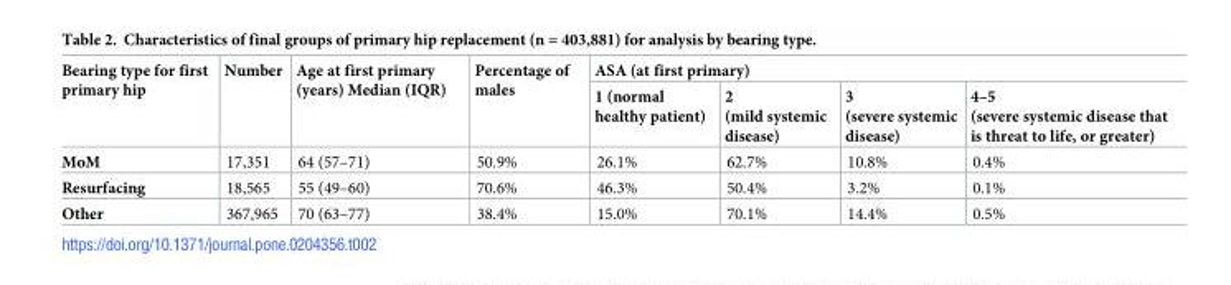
<table><thead><tr><td rowspan="2">Bearing type for first primary hip</td><td rowspan="2">Number</td><td rowspan="2">Age at first primary (years) Median (IQR)</td><td rowspan="2">Percentage of males</td><td colspan="4">ASA (at first primary)</td></tr><tr><td>1 (normal healthy patient)</td><td>2 (mild systemic disease)</td><td>3 (severe systemic disease)</td><td>4–5 (severe systemic disease that is threat to life, or greater)</td></tr></thead><tbody><tr><td>MoM</td><td>17,351</td><td>64 (57–71)</td><td>50.9%</td><td>26.1%</td><td>62.7%</td><td>10.8%</td><td>0.4%</td></tr><tr><td>Resurfacing</td><td>18,565</td><td>55 (49–60)</td><td>70.6%</td><td>46.3%</td><td>50.4%</td><td>3.2%</td><td>0.1%</td></tr><tr><td>Other</td><td>367,965</td><td>70 (63–77)</td><td>38.4%</td><td>15.0%</td><td>70.1%</td><td>14.4%</td><td>0.5%</td></tr></tbody></table>